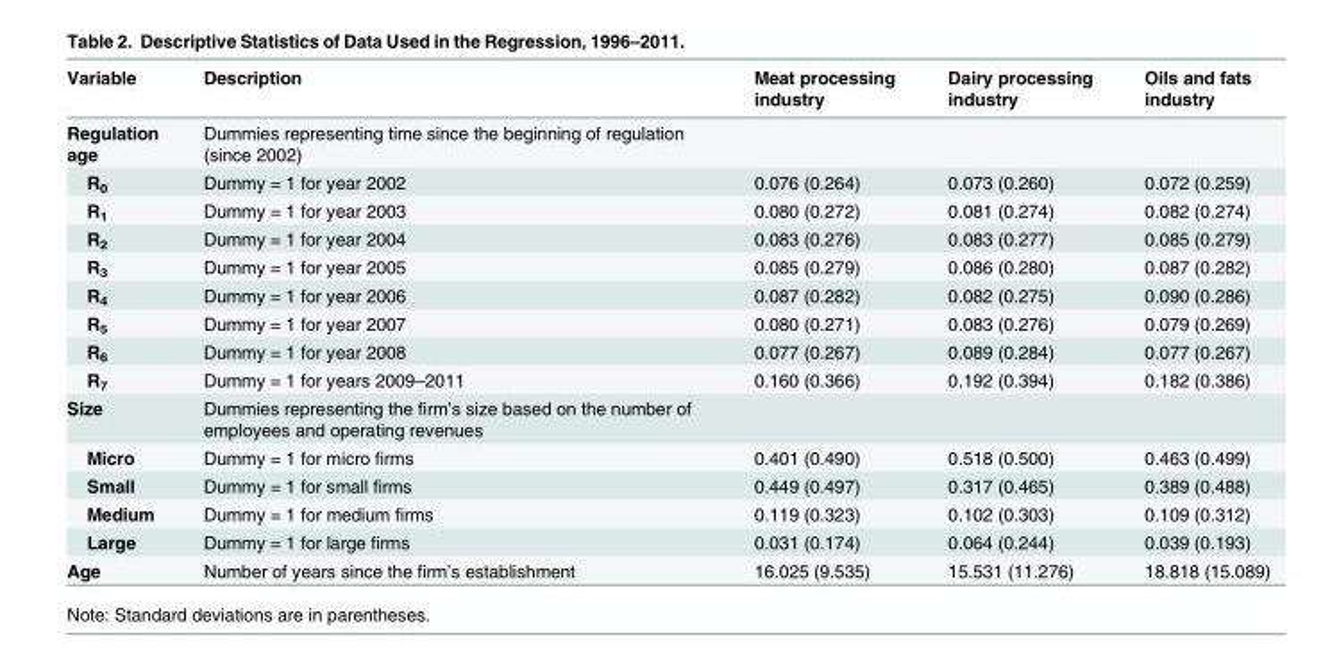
<table><thead><tr><td>Variable</td><td>Description</td><td>Meat processing industry</td><td>Dairy processing industry</td><td>Oils and fats industry</td></tr></thead><tbody><tr><td>Regulation age</td><td>Dummies representing time since the beginning of regulation (since 2002)</td><td></td><td></td><td></td></tr><tr><td>R<sub>0</sub></td><td>Dummy = 1 for year 2002</td><td>0.076 (0.264)</td><td>0.073 (0.260)</td><td>0.072 (0.259)</td></tr><tr><td>R<sub>1</sub></td><td>Dummy = 1 for year 2003</td><td>0.080 (0.272)</td><td>0.081 (0.274)</td><td>0.082 (0.274)</td></tr><tr><td>R<sub>2</sub></td><td>Dummy = 1 for year 2004</td><td>0.083 (0.276)</td><td>0.083 (0.277)</td><td>0.085 (0.279)</td></tr><tr><td>R<sub>3</sub></td><td>Dummy = 1 for year 2005</td><td>0.085 (0.279)</td><td>0.086 (0.280)</td><td>0.087 (0.282)</td></tr><tr><td>R<sub>4</sub></td><td>Dummy = 1 for year 2006</td><td>0.087 (0.282)</td><td>0.082 (0.275)</td><td>0.090 (0.286)</td></tr><tr><td>R<sub>5</sub></td><td>Dummy = 1 for year 2007</td><td>0.080 (0.271)</td><td>0.083 (0.276)</td><td>0.079 (0.269)</td></tr><tr><td>R<sub>6</sub></td><td>Dummy = 1 for year 2008</td><td>0.077 (0.267)</td><td>0.089 (0.284)</td><td>0.077 (0.267)</td></tr><tr><td>R<sub>7</sub></td><td>Dummy = 1 for years 2009–2011</td><td>0.160 (0.366)</td><td>0.192 (0.394)</td><td>0.182 (0.386)</td></tr><tr><td>Size</td><td>Dummies representing the firm’s size based on the number of employees and operating revenues</td><td></td><td></td><td></td></tr><tr><td>Micro</td><td>Dummy = 1 for micro firms</td><td>0.401 (0.490)</td><td>0.518 (0.500)</td><td>0.463 (0.499)</td></tr><tr><td>Small</td><td>Dummy = 1 for small firms</td><td>0.449 (0.497)</td><td>0.317 (0.465)</td><td>0.389 (0.488)</td></tr><tr><td>Medium</td><td>Dummy = 1 for medium firms</td><td>0.119 (0.323)</td><td>0.102 (0.303)</td><td>0.109 (0.312)</td></tr><tr><td>Large</td><td>Dummy = 1 for large firms</td><td>0.031 (0.174)</td><td>0.064 (0.244)</td><td>0.039 (0.193)</td></tr><tr><td>Age</td><td>Number of years since the firm’s establishment</td><td>16.025 (9.535)</td><td>15.531 (11.276)</td><td>18.818 (15.089)</td></tr></tbody></table>